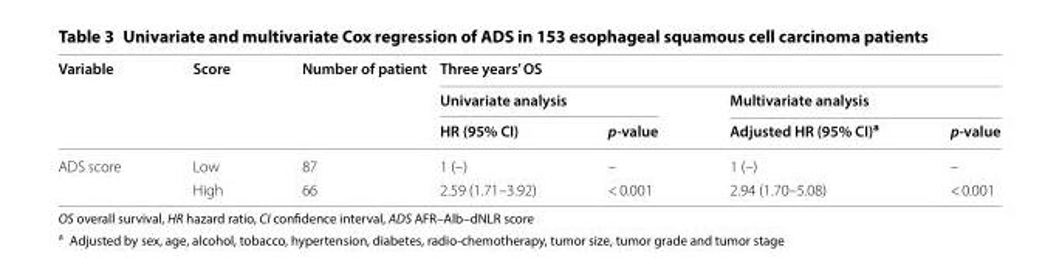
<table><thead><tr><td rowspan="3">Variable</td><td rowspan="3">Score</td><td rowspan="3">Number of patient</td><td colspan="4">Three years’ OS</td></tr><tr><td colspan="2">Univariate analysis</td><td colspan="2">Multivariate analysis</td></tr><tr><td>HR (95% CI)</td><td>p-value</td><td>Adjusted HR (95% CI)<sup>a</sup></td><td>p-value</td></tr></thead><tbody><tr><td rowspan="2">ADS score</td><td>Low</td><td>87</td><td>1 (–)</td><td>–</td><td>1 (–)</td><td>–</td></tr><tr><td>High</td><td>66</td><td>2.59 (1.71–3.92)</td><td>&lt; 0.001</td><td>2.94 (1.70–5.08)</td><td>&lt; 0.001</td></tr></tbody></table>